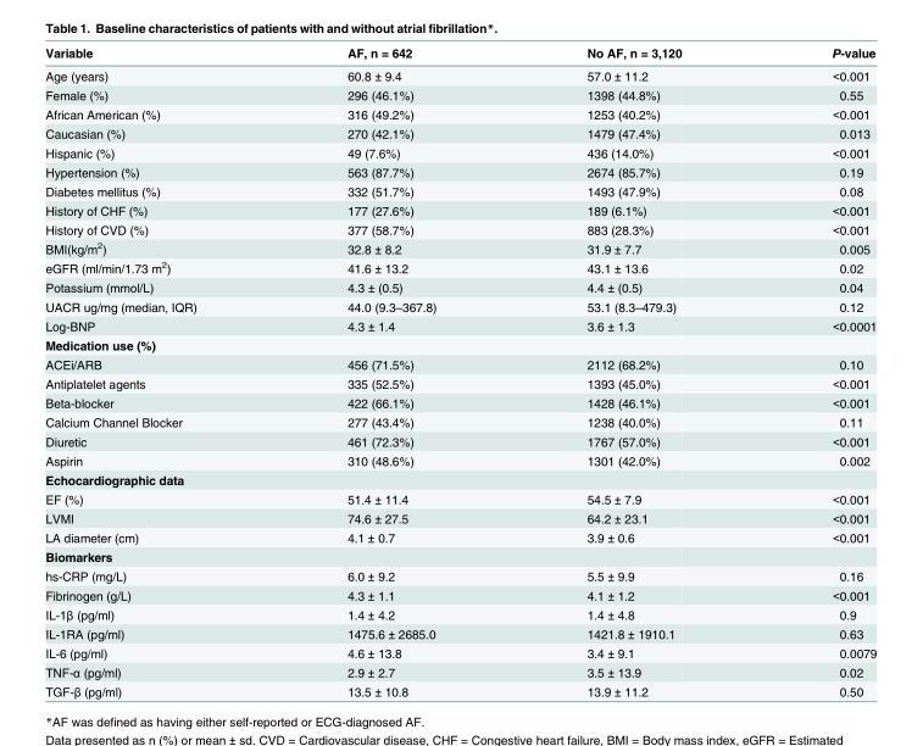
<table><thead><tr><td>Variable</td><td>AF, n = 642</td><td>No AF, n = 3,120</td><td>P-value</td></tr></thead><tbody><tr><td>Age (years)</td><td>60.8 ± 9.4</td><td>57.0 ± 11.2</td><td>&lt;0.001</td></tr><tr><td>Female (%)</td><td>296 (46.1%)</td><td>1398 (44.8%)</td><td>0.55</td></tr><tr><td>African American (%)</td><td>316 (49.2%)</td><td>1253 (40.2%)</td><td>&lt;0.001</td></tr><tr><td>Caucasian (%)</td><td>270 (42.1%)</td><td>1479 (47.4%)</td><td>0.013</td></tr><tr><td>Hispanic (%)</td><td>49 (7.6%)</td><td>436 (14.0%)</td><td>&lt;0.001</td></tr><tr><td>Hypertension (%)</td><td>563 (87.7%)</td><td>2674 (85.7%)</td><td>0.19</td></tr><tr><td>Diabetes mellitus (%)</td><td>332 (51.7%)</td><td>1493 (47.9%)</td><td>0.08</td></tr><tr><td>History of CHF (%)</td><td>177 (27.6%)</td><td>189 (6.1%)</td><td>&lt;0.001</td></tr><tr><td>History of CVD (%)</td><td>377 (58.7%)</td><td>883 (28.3%)</td><td>&lt;0.001</td></tr><tr><td>BMI(kg/m<sup>2</sup>)</td><td>32.8 ± 8.2</td><td>31.9 ± 7.7</td><td>0.005</td></tr><tr><td>eGFR (ml/min/1.73 m<sup>2</sup>)</td><td>41.6 ± 13.2</td><td>43.1 ± 13.6</td><td>0.02</td></tr><tr><td>Potassium (mmol/L)</td><td>4.3 ± (0.5)</td><td>4.4 ± (0.5)</td><td>0.04</td></tr><tr><td>UACR ug/mg (median, IQR)</td><td>44.0 (9.3–367.8)</td><td>53.1 (8.3–479.3)</td><td>0.12</td></tr><tr><td>Log-BNP</td><td>4.3 ± 1.4</td><td>3.6 ± 1.3</td><td>&lt;0.0001</td></tr><tr><td colspan="4">Medication use (%)</td></tr><tr><td>ACEi/ARB</td><td>456 (71.5%)</td><td>2112 (68.2%)</td><td>0.10</td></tr><tr><td>Antiplatelet agents</td><td>335 (52.5%)</td><td>1393 (45.0%)</td><td>&lt;0.001</td></tr><tr><td>Beta-blocker</td><td>422 (66.1%)</td><td>1428 (46.1%)</td><td>&lt;0.001</td></tr><tr><td>Calcium Channel Blocker</td><td>277 (43.4%)</td><td>1238 (40.0%)</td><td>0.11</td></tr><tr><td>Diuretic</td><td>461 (72.3%)</td><td>1767 (57.0%)</td><td>&lt;0.001</td></tr><tr><td>Aspirin</td><td>310 (48.6%)</td><td>1301 (42.0%)</td><td>0.002</td></tr><tr><td colspan="4">Echocardiographic data</td></tr><tr><td>EF (%)</td><td>51.4 ± 11.4</td><td>54.5 ± 7.9</td><td>&lt;0.001</td></tr><tr><td>LVMI</td><td>74.6 ± 27.5</td><td>64.2 ± 23.1</td><td>&lt;0.001</td></tr><tr><td>LA diameter (cm)</td><td>4.1 ± 0.7</td><td>3.9 ± 0.6</td><td>&lt;0.001</td></tr><tr><td colspan="4">Biomarkers</td></tr><tr><td>hs-CRP (mg/L)</td><td>6.0 ± 9.2</td><td>5.5 ± 9.9</td><td>0.16</td></tr><tr><td>Fibrinogen (g/L)</td><td>4.3 ± 1.1</td><td>4.1 ± 1.2</td><td>&lt;0.001</td></tr><tr><td>IL-1β (pg/ml)</td><td>1.4 ± 4.2</td><td>1.4 ± 4.8</td><td>0.9</td></tr><tr><td>IL-1RA (pg/ml)</td><td>1475.6 ± 2685.0</td><td>1421.8 ± 1910.1</td><td>0.63</td></tr><tr><td>IL-6 (pg/ml)</td><td>4.6 ± 13.8</td><td>3.4 ± 9.1</td><td>0.0079</td></tr><tr><td>TNF-α (pg/ml)</td><td>2.9 ± 2.7</td><td>3.5 ± 13.9</td><td>0.02</td></tr><tr><td>TGF-β (pg/ml)</td><td>13.5 ± 10.8</td><td>13.9 ± 11.2</td><td>0.50</td></tr></tbody></table>